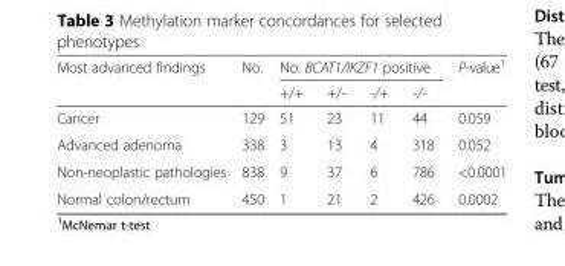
<table><thead><tr><td rowspan="2">Most advanced findings</td><td rowspan="2">No.</td><td colspan="4">No. BCAT1/IKZF1 positive</td><td rowspan="2">P-value<sup>1</sup></td></tr><tr><td>+/+</td><td>+/-</td><td>-/+</td><td>-/-</td></tr></thead><tbody><tr><td>Cancer</td><td>129</td><td>51</td><td>23</td><td>11</td><td>44</td><td>0.059</td></tr><tr><td>Advanced adenoma</td><td>338</td><td>3</td><td>13</td><td>4</td><td>318</td><td>0.052</td></tr><tr><td>Non-neoplastic pathologies</td><td>838</td><td>9</td><td>37</td><td>6</td><td>786</td><td>&lt;0.0001</td></tr><tr><td>Normal colon/rectum</td><td>450</td><td>1</td><td>21</td><td>2</td><td>426</td><td>0.0002</td></tr></tbody></table>